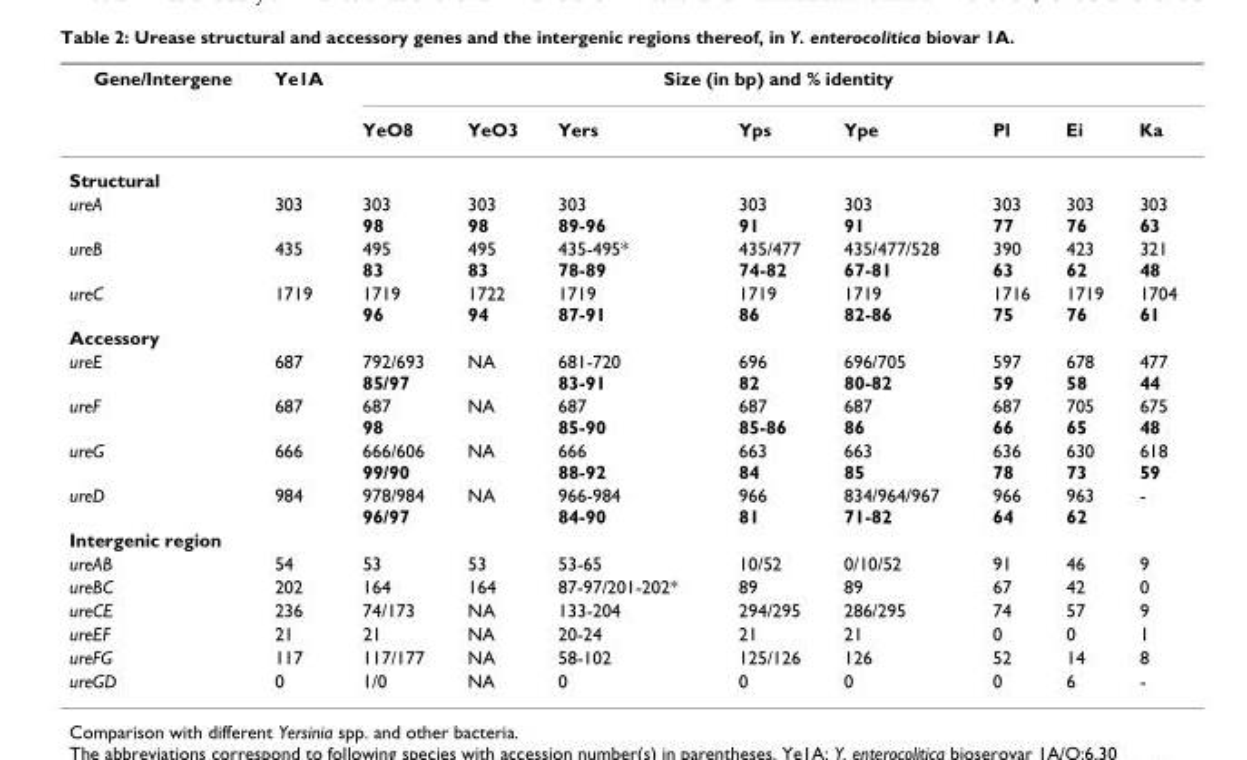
<table><thead><tr><td rowspan="2">Gene/Intergene</td><td rowspan="2">Ye1A</td><td colspan="8">Size (in bp) and % identity</td></tr><tr><td>YeO8</td><td>YeO3</td><td>Yers</td><td>Yps</td><td>Ype</td><td>Pl</td><td>Ei</td><td>Ka</td></tr></thead><tbody><tr><td colspan="10">Structural</td></tr><tr><td>ureA</td><td>303</td><td>303 98</td><td>303 98</td><td>303 89-96</td><td>303 91</td><td>303 91</td><td>303 77</td><td>303 76</td><td>303 63</td></tr><tr><td>ureB</td><td>435</td><td>495 83</td><td>495 83</td><td>435-495* 78-89</td><td>435/477 74-82</td><td>435/477/528 67-81</td><td>390 63</td><td>423 62</td><td>321 48</td></tr><tr><td>ureC</td><td>1719</td><td>1719 96</td><td>1722 94</td><td>1719 87-91</td><td>1719 86</td><td>1719 82-86</td><td>1716 75</td><td>1719 76</td><td>1704 61</td></tr><tr><td colspan="10">Accessory</td></tr><tr><td>ureE</td><td>687</td><td>792/693 85/97</td><td>NA</td><td>681-720 83-91</td><td>696 82</td><td>696/705 80-82</td><td>597 59</td><td>678 58</td><td>477 44</td></tr><tr><td>ureF</td><td>687</td><td>687 98</td><td>NA</td><td>687 85-90</td><td>687 85-86</td><td>687 86</td><td>687 66</td><td>705 65</td><td>675 48</td></tr><tr><td>ureG</td><td>666</td><td>666/606 99/90</td><td>NA</td><td>666 88-92</td><td>663 84</td><td>663 85</td><td>636 78</td><td>630 73</td><td>618 59</td></tr><tr><td>ureD</td><td>984</td><td>978/984 96/97</td><td>NA</td><td>966-984 84-90</td><td>966 81</td><td>834/964/967 71-82</td><td>966 64</td><td>963 62</td><td>-</td></tr><tr><td colspan="10">Intergenic region</td></tr><tr><td>ureAB</td><td>54</td><td>53</td><td>53</td><td>53-65</td><td>10/52</td><td>0/10/52</td><td>91</td><td>46</td><td>9</td></tr><tr><td>ureBC</td><td>202</td><td>164</td><td>164</td><td>87-97/201-202*</td><td>89</td><td>89</td><td>67</td><td>42</td><td>0</td></tr><tr><td>ureCE</td><td>236</td><td>74/173</td><td>NA</td><td>133-204</td><td>294/295</td><td>286/295</td><td>74</td><td>57</td><td>9</td></tr><tr><td>ureEF</td><td>21</td><td>21</td><td>NA</td><td>20-24</td><td>21</td><td>21</td><td>0</td><td>0</td><td>1</td></tr><tr><td>ureFG</td><td>117</td><td>117/177</td><td>NA</td><td>58-102</td><td>125/126</td><td>126</td><td>52</td><td>14</td><td>8</td></tr><tr><td>ureGD</td><td>0</td><td>1/0</td><td>NA</td><td>0</td><td>0</td><td>0</td><td>0</td><td>6</td><td>-</td></tr></tbody></table>